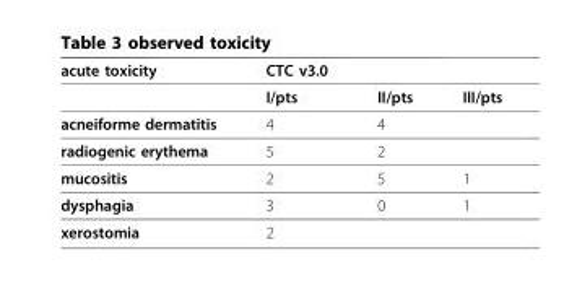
<table><thead><tr><td>acute toxicity</td><td>CTC v3.0</td><td></td><td></td></tr></thead><tbody><tr><td></td><td>I/pts</td><td>II/pts</td><td>III/pts</td></tr><tr><td>acneiforme dermatitis</td><td>4</td><td>4</td><td></td></tr><tr><td>radiogenic erythema</td><td>5</td><td>2</td><td></td></tr><tr><td>mucositis</td><td>2</td><td>5</td><td>1</td></tr><tr><td>dysphagia</td><td>3</td><td>0</td><td>1</td></tr><tr><td>xerostomia</td><td>2</td><td></td><td></td></tr></tbody></table>